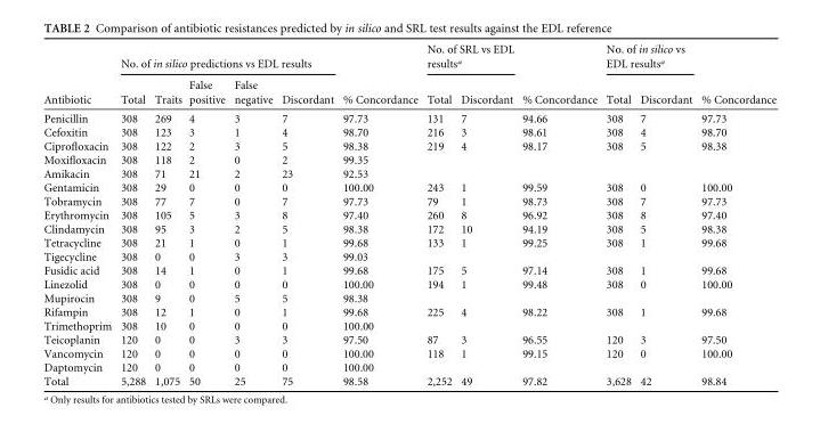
<table><thead><tr><td rowspan="2">Antibiotic</td><td colspan="5">No. of in silico predictions vs EDL results</td><td rowspan="2">% Concordance</td><td colspan="2">No. of SRL vs EDL results<sup>a</sup></td><td rowspan="2">% Concordance</td><td colspan="2">No. of in silico vs EDL results<sup>a</sup></td><td rowspan="2">% Concordance</td></tr><tr><td>Total</td><td>Traits</td><td>False positive</td><td>False negative</td><td>Discordant</td><td>Total</td><td>Discordant</td><td>Total</td><td>Discordant</td></tr></thead><tbody><tr><td>Penicillin</td><td>308</td><td>269</td><td>4</td><td>3</td><td>7</td><td>97.73</td><td>131</td><td>7</td><td>94.66</td><td>308</td><td>7</td><td>97.73</td></tr><tr><td>Cefoxitin</td><td>308</td><td>123</td><td>3</td><td>1</td><td>4</td><td>98.70</td><td>216</td><td>3</td><td>98.61</td><td>308</td><td>4</td><td>98.70</td></tr><tr><td>Ciprofloxacin</td><td>308</td><td>122</td><td>2</td><td>3</td><td>5</td><td>98.38</td><td>219</td><td>4</td><td>98.17</td><td>308</td><td>5</td><td>98.38</td></tr><tr><td>Moxifloxacin</td><td>308</td><td>118</td><td>2</td><td>0</td><td>2</td><td>99.35</td><td></td><td></td><td></td><td></td><td></td><td></td></tr><tr><td>Amikacin</td><td>308</td><td>71</td><td>21</td><td>2</td><td>23</td><td>92.53</td><td></td><td></td><td></td><td></td><td></td><td></td></tr><tr><td>Gentamicin</td><td>308</td><td>29</td><td>0</td><td>0</td><td>0</td><td>100.00</td><td>243</td><td>1</td><td>99.59</td><td>308</td><td>0</td><td>100.00</td></tr><tr><td>Tobramycin</td><td>308</td><td>77</td><td>7</td><td>0</td><td>7</td><td>97.73</td><td>79</td><td>1</td><td>98.73</td><td>308</td><td>7</td><td>97.73</td></tr><tr><td>Erythromycin</td><td>308</td><td>105</td><td>5</td><td>3</td><td>8</td><td>97.40</td><td>260</td><td>8</td><td>96.92</td><td>308</td><td>8</td><td>97.40</td></tr><tr><td>Clindamycin</td><td>308</td><td>95</td><td>3</td><td>2</td><td>5</td><td>98.38</td><td>172</td><td>10</td><td>94.19</td><td>308</td><td>5</td><td>98.38</td></tr><tr><td>Tetracycline</td><td>308</td><td>21</td><td>1</td><td>0</td><td>1</td><td>99.68</td><td>133</td><td>1</td><td>99.25</td><td>308</td><td>1</td><td>99.68</td></tr><tr><td>Tigecycline</td><td>308</td><td>0</td><td>0</td><td>3</td><td>3</td><td>99.03</td><td></td><td></td><td></td><td></td><td></td><td></td></tr><tr><td>Fusidic acid</td><td>308</td><td>14</td><td>1</td><td>0</td><td>1</td><td>99.68</td><td>175</td><td>5</td><td>97.14</td><td>308</td><td>1</td><td>99.68</td></tr><tr><td>Linezolid</td><td>308</td><td>0</td><td>0</td><td>0</td><td>0</td><td>100.00</td><td>194</td><td>1</td><td>99.48</td><td>308</td><td>0</td><td>100.00</td></tr><tr><td>Mupirocin</td><td>308</td><td>9</td><td>0</td><td>5</td><td>5</td><td>98.38</td><td></td><td></td><td></td><td></td><td></td><td></td></tr><tr><td>Rifampin</td><td>308</td><td>12</td><td>1</td><td>0</td><td>1</td><td>99.68</td><td>225</td><td>4</td><td>98.22</td><td>308</td><td>1</td><td>99.68</td></tr><tr><td>Trimethoprim</td><td>308</td><td>10</td><td>0</td><td>0</td><td>0</td><td>100.00</td><td></td><td></td><td></td><td></td><td></td><td></td></tr><tr><td>Teicoplanin</td><td>120</td><td>0</td><td>0</td><td>3</td><td>3</td><td>97.50</td><td>87</td><td>3</td><td>96.55</td><td>120</td><td>3</td><td>97.50</td></tr><tr><td>Vancomycin</td><td>120</td><td>0</td><td>0</td><td>0</td><td>0</td><td>100.00</td><td>118</td><td>1</td><td>99.15</td><td>120</td><td>0</td><td>100.00</td></tr><tr><td>Daptomycin</td><td>120</td><td>0</td><td>0</td><td>0</td><td>0</td><td>100.00</td><td></td><td></td><td></td><td></td><td></td><td></td></tr><tr><td>Total</td><td>5,288</td><td>1,075</td><td>50</td><td>25</td><td>75</td><td>98.58</td><td>2,252</td><td>49</td><td>97.82</td><td>3,628</td><td>42</td><td>98.84</td></tr></tbody></table>